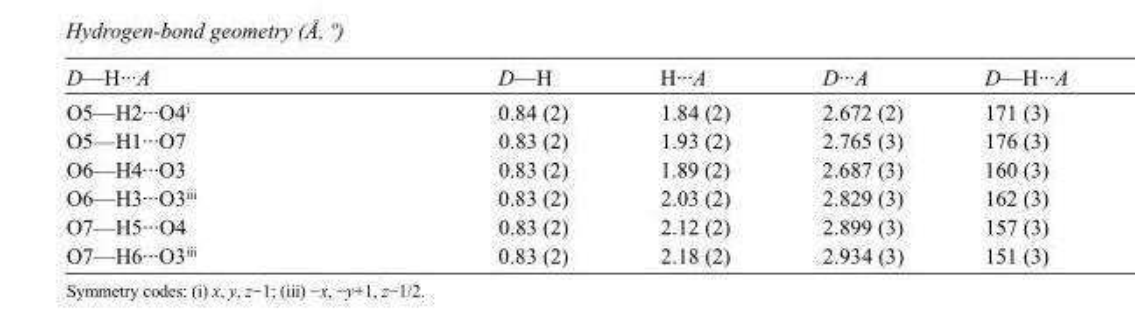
<table><tbody><tr><td>D—H···A</td><td>D—H</td><td>H···A</td><td>D···A</td><td>D—H···A</td></tr><tr><td>O5—H2···O4<sup>i</sup></td><td>0.84 (2)</td><td>1.84 (2)</td><td>2.672 (2)</td><td>171 (3)</td></tr><tr><td>O5—H1···O7</td><td>0.83 (2)</td><td>1.93 (2)</td><td>2.765 (3)</td><td>176 (3)</td></tr><tr><td>O6—H4···O3</td><td>0.83 (2)</td><td>1.89 (2)</td><td>2.687 (3)</td><td>160 (3)</td></tr><tr><td>O6—H3···O3<sup>iii</sup></td><td>0.83 (2)</td><td>2.03 (2)</td><td>2.829 (3)</td><td>162 (3)</td></tr><tr><td>O7—H5···O4</td><td>0.83 (2)</td><td>2.12 (2)</td><td>2.899 (3)</td><td>157 (3)</td></tr><tr><td>O7—H6···O3<sup>iii</sup></td><td>0.83 (2)</td><td>2.18 (2)</td><td>2.934 (3)</td><td>151 (3)</td></tr></tbody></table>